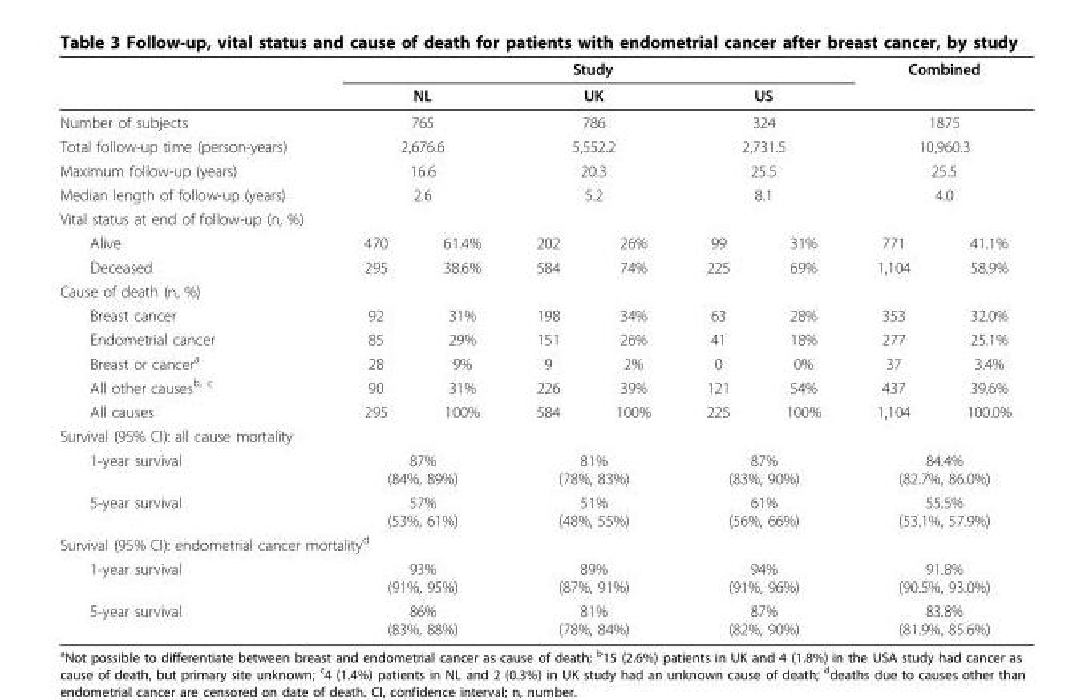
<table><thead><tr><td rowspan="2"></td><td colspan="6">Study</td><td colspan="2">Combined</td></tr><tr><td colspan="2">NL</td><td colspan="2">UK</td><td colspan="2">US</td><td></td><td></td></tr></thead><tbody><tr><td>Number of subjects</td><td colspan="2">765</td><td colspan="2">786</td><td colspan="2">324</td><td colspan="2">1875</td></tr><tr><td>Total follow-up time (person-years)</td><td colspan="2">2,676.6</td><td colspan="2">5,552.2</td><td colspan="2">2,731.5</td><td colspan="2">10,960.3</td></tr><tr><td>Maximum follow-up (years)</td><td colspan="2">16.6</td><td colspan="2">20.3</td><td colspan="2">25.5</td><td colspan="2">25.5</td></tr><tr><td>Median length of follow-up (years)</td><td colspan="2">2.6</td><td colspan="2">5.2</td><td colspan="2">8.1</td><td colspan="2">4.0</td></tr><tr><td colspan="9">Vital status at end of follow-up (n, %)</td></tr><tr><td>Alive</td><td>470</td><td>61.4%</td><td>202</td><td>26%</td><td>99</td><td>31%</td><td>771</td><td>41.1%</td></tr><tr><td>Deceased</td><td>295</td><td>38.6%</td><td>584</td><td>74%</td><td>225</td><td>69%</td><td>1,104</td><td>58.9%</td></tr><tr><td colspan="9">Cause of death (n, %)</td></tr><tr><td>Breast cancer</td><td>92</td><td>31%</td><td>198</td><td>34%</td><td>63</td><td>28%</td><td>353</td><td>32.0%</td></tr><tr><td>Endometrial cancer</td><td>85</td><td>29%</td><td>151</td><td>26%</td><td>41</td><td>18%</td><td>277</td><td>25.1%</td></tr><tr><td>Breast or cancer<sup>a</sup></td><td>28</td><td>9%</td><td>9</td><td>2%</td><td>0</td><td>0%</td><td>37</td><td>3.4%</td></tr><tr><td>All other causes<sup>b, c</sup></td><td>90</td><td>31%</td><td>226</td><td>39%</td><td>121</td><td>54%</td><td>437</td><td>39.6%</td></tr><tr><td>All causes</td><td>295</td><td>100%</td><td>584</td><td>100%</td><td>225</td><td>100%</td><td>1,104</td><td>100.0%</td></tr><tr><td colspan="9">Survival (95% CI): all cause mortality</td></tr><tr><td>1-year survival</td><td colspan="2">87% (84%, 89%)</td><td colspan="2">81% (78%, 83%)</td><td colspan="2">87% (83%, 90%)</td><td colspan="2">84.4% (82.7%, 86.0%)</td></tr><tr><td>5-year survival</td><td colspan="2">57% (53%, 61%)</td><td colspan="2">51% (48%, 55%)</td><td colspan="2">61% (56%, 66%)</td><td colspan="2">55.5% (53.1%, 57.9%)</td></tr><tr><td colspan="9">Survival (95% CI): endometrial cancer mortality<sup>d</sup></td></tr><tr><td>1-year survival</td><td colspan="2">93% (91%, 95%)</td><td colspan="2">89% (87%, 91%)</td><td colspan="2">94% (91%, 96%)</td><td colspan="2">91.8% (90.5%, 93.0%)</td></tr><tr><td>5-year survival</td><td colspan="2">86% (83%, 88%)</td><td colspan="2">81% (78%, 84%)</td><td colspan="2">87% (82%, 90%)</td><td colspan="2">83.8% (81.9%, 85.6%)</td></tr></tbody></table>